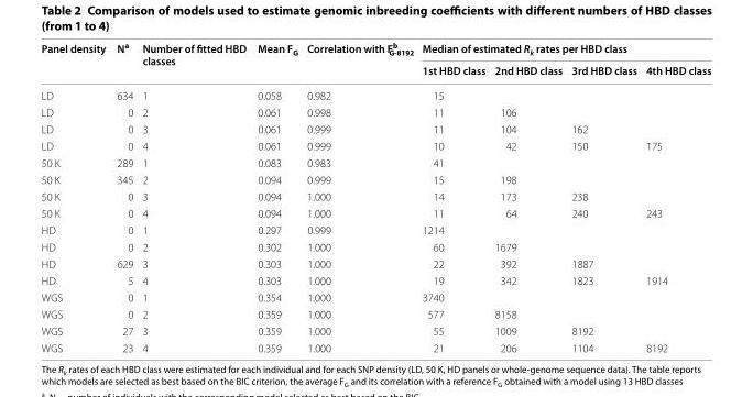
<table><thead><tr><td rowspan="2">Panel density</td><td rowspan="2">N<sup>a</sup></td><td rowspan="2">Number of fitted HBD classes</td><td rowspan="2">Mean F<sub>G</sub></td><td rowspan="2">Correlation with Fb G-8192</td><td colspan="4">Median of estimated R<sub>k</sub> rates per HBD class</td></tr><tr><td>1st HBD class</td><td>2nd HBD class</td><td>3rd HBD class</td><td>4th HBD class</td></tr></thead><tbody><tr><td>LD</td><td>634</td><td>1</td><td>0.058</td><td>0.982</td><td>15</td><td></td><td></td><td></td></tr><tr><td>LD</td><td>0</td><td>2</td><td>0.061</td><td>0.998</td><td>11</td><td>106</td><td></td><td></td></tr><tr><td>LD</td><td>0</td><td>3</td><td>0.061</td><td>0.999</td><td>11</td><td>104</td><td>162</td><td></td></tr><tr><td>LD</td><td>0</td><td>4</td><td>0.061</td><td>0.999</td><td>10</td><td>42</td><td>150</td><td>175</td></tr><tr><td>50 K</td><td>289</td><td>1</td><td>0.083</td><td>0.983</td><td>41</td><td></td><td></td><td></td></tr><tr><td>50 K</td><td>345</td><td>2</td><td>0.094</td><td>0.999</td><td>15</td><td>198</td><td></td><td></td></tr><tr><td>50 K</td><td>0</td><td>3</td><td>0.094</td><td>1.000</td><td>14</td><td>173</td><td>238</td><td></td></tr><tr><td>50 K</td><td>0</td><td>4</td><td>0.094</td><td>1.000</td><td>11</td><td>64</td><td>240</td><td>243</td></tr><tr><td>HD</td><td>0</td><td>1</td><td>0.297</td><td>0.999</td><td>1214</td><td></td><td></td><td></td></tr><tr><td>HD</td><td>0</td><td>2</td><td>0.302</td><td>1.000</td><td>60</td><td>1679</td><td></td><td></td></tr><tr><td>HD</td><td>629</td><td>3</td><td>0.303</td><td>1.000</td><td>22</td><td>392</td><td>1887</td><td></td></tr><tr><td>HD</td><td>5</td><td>4</td><td>0.303</td><td>1.000</td><td>19</td><td>342</td><td>1823</td><td>1914</td></tr><tr><td>WGS</td><td>0</td><td>1</td><td>0.354</td><td>1.000</td><td>3740</td><td></td><td></td><td></td></tr><tr><td>WGS</td><td>0</td><td>2</td><td>0.359</td><td>1.000</td><td>577</td><td>8158</td><td></td><td></td></tr><tr><td>WGS</td><td>27</td><td>3</td><td>0.359</td><td>1.000</td><td>55</td><td>1009</td><td>8192</td><td></td></tr><tr><td>WGS</td><td>23</td><td>4</td><td>0.359</td><td>1.000</td><td>21</td><td>206</td><td>1104</td><td>8192</td></tr></tbody></table>